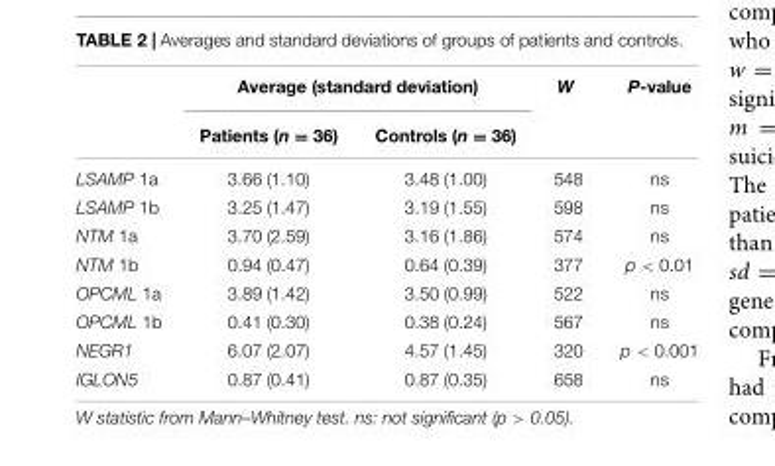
<table><thead><tr><td rowspan="2"></td><td colspan="2">Average (standard deviation)</td><td rowspan="2">W</td><td rowspan="2">P-value</td></tr><tr><td>Patients (n = 36)</td><td>Controls (n = 36)</td></tr></thead><tbody><tr><td>LSAMP 1a</td><td>3.66 (1.10)</td><td>3.48 (1.00)</td><td>548</td><td>ns</td></tr><tr><td>LSAMP 1b</td><td>3.25 (1.47)</td><td>3.19 (1.55)</td><td>598</td><td>ns</td></tr><tr><td>NTM 1a</td><td>3.70 (2.59)</td><td>3.16 (1.86)</td><td>574</td><td>ns</td></tr><tr><td>NTM 1b</td><td>0.94 (0.47)</td><td>0.64 (0.39)</td><td>377</td><td>p &lt; 0.01</td></tr><tr><td>OPCML 1a</td><td>3.89 (1.42)</td><td>3.50 (0.99)</td><td>522</td><td>ns</td></tr><tr><td>OPCML 1b</td><td>0.41 (0.30)</td><td>0.38 (0.24)</td><td>567</td><td>ns</td></tr><tr><td>NEGR1</td><td>6.07 (2.07)</td><td>4.57 (1.45)</td><td>320</td><td>p &lt; 0.001</td></tr><tr><td>IGLON5</td><td>0.87 (0.41)</td><td>0.87 (0.35)</td><td>658</td><td>ns</td></tr></tbody></table>